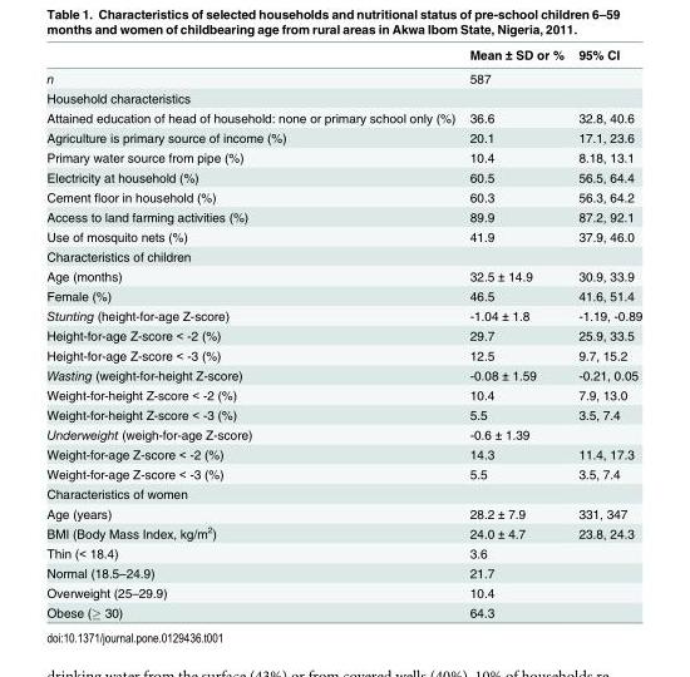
<table><thead><tr><td></td><td>Mean ± SD or %</td><td>95% CI</td></tr></thead><tbody><tr><td>n</td><td>587</td><td></td></tr><tr><td colspan="3">Household characteristics</td></tr><tr><td>Attained education of head of household: none or primary school only (%)</td><td>36.6</td><td>32.8, 40.6</td></tr><tr><td>Agriculture is primary source of income (%)</td><td>20.1</td><td>17.1, 23.6</td></tr><tr><td>Primary water source from pipe (%)</td><td>10.4</td><td>8.18, 13.1</td></tr><tr><td>Electricity at household (%)</td><td>60.5</td><td>56.5, 64.4</td></tr><tr><td>Cement floor in household (%)</td><td>60.3</td><td>56.3, 64.2</td></tr><tr><td>Access to land farming activities (%)</td><td>89.9</td><td>87.2, 92.1</td></tr><tr><td>Use of mosquito nets (%)</td><td>41.9</td><td>37.9, 46.0</td></tr><tr><td colspan="3">Characteristics of children</td></tr><tr><td>Age (months)</td><td>32.5 ± 14.9</td><td>30.9, 33.9</td></tr><tr><td>Female (%)</td><td>46.5</td><td>41.6, 51.4</td></tr><tr><td>Stunting (height-for-age Z-score)</td><td>-1.04 ± 1.8</td><td>-1.19, -0.89</td></tr><tr><td>Height-for-age Z-score &lt; -2 (%)</td><td>29.7</td><td>25.9, 33.5</td></tr><tr><td>Height-for-age Z-score &lt; -3 (%)</td><td>12.5</td><td>9.7, 15.2</td></tr><tr><td>Wasting (weight-for-height Z-score)</td><td>-0.08 ± 1.59</td><td>-0.21, 0.05</td></tr><tr><td>Weight-for-height Z-score &lt; -2 (%)</td><td>10.4</td><td>7.9, 13.0</td></tr><tr><td>Weight-for-height Z-score &lt; -3 (%)</td><td>5.5</td><td>3.5, 7.4</td></tr><tr><td>Underweight (weigh-for-age Z-score)</td><td>-0.6 ± 1.39</td><td></td></tr><tr><td>Weight-for-age Z-score &lt; -2 (%)</td><td>14.3</td><td>11.4, 17.3</td></tr><tr><td>Weight-for-age Z-score &lt; -3 (%)</td><td>5.5</td><td>3.5, 7.4</td></tr><tr><td colspan="3">Characteristics of women</td></tr><tr><td>Age (years)</td><td>28.2 ± 7.9</td><td>331, 347</td></tr><tr><td>BMI (Body Mass Index, kg/m<sup>2</sup>)</td><td>24.0 ± 4.7</td><td>23.8, 24.3</td></tr><tr><td>Thin (&lt; 18.4)</td><td>3.6</td><td></td></tr><tr><td>Normal (18.5–24.9)</td><td>21.7</td><td></td></tr><tr><td>Overweight (25–29.9)</td><td>10.4</td><td></td></tr><tr><td>Obese (≥ 30)</td><td>64.3</td><td></td></tr></tbody></table>